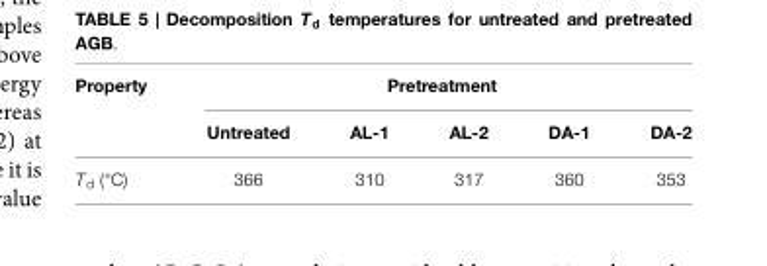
<table><thead><tr><td rowspan="2">Property</td><td colspan="5">Pretreatment</td></tr><tr><td>Untreated</td><td>AL-1</td><td>AL-2</td><td>DA-1</td><td>DA-2</td></tr></thead><tbody><tr><td>T<sub>d</sub> (°C)</td><td>366</td><td>310</td><td>317</td><td>360</td><td>353</td></tr></tbody></table>